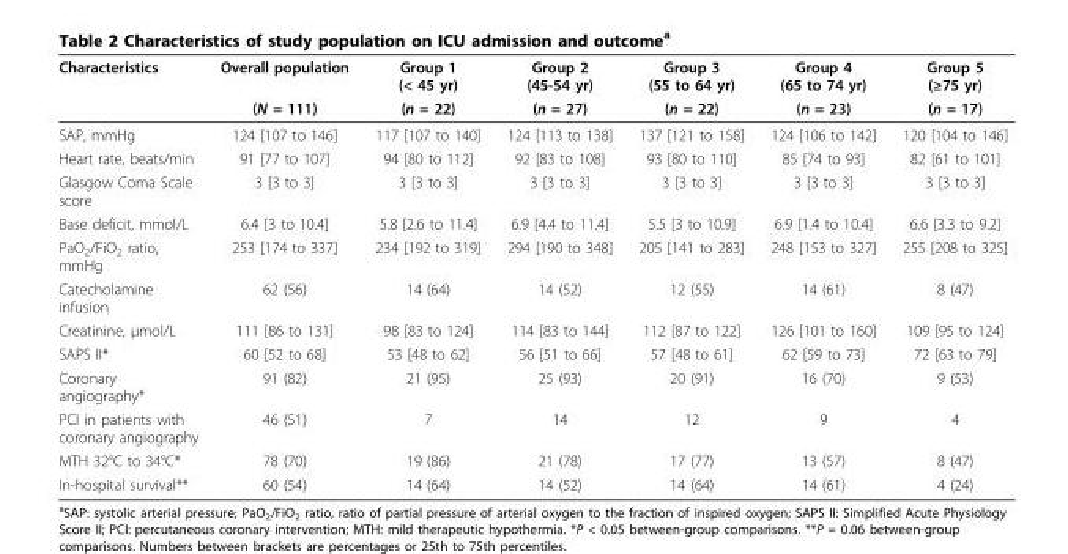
<table><thead><tr><td rowspan="2">Characteristics</td><td rowspan="2">Overall population (N = 111)</td><td rowspan="2">Group 1 (&lt; 45 yr) (n = 22)</td><td rowspan="2">Group 2 (45-54 yr) (n = 27)</td><td rowspan="2">Group 3 (55 to 64 yr) (n = 22)</td><td rowspan="2">Group 4 (65 to 74 yr) (n = 23)</td><td rowspan="2">Group 5 (≥75 yr) (n = 17)</td></tr><tr></tr></thead><tbody><tr><td>SAP, mmHg</td><td>124 [107 to 146]</td><td>117 [107 to 140]</td><td>124 [113 to 138]</td><td>137 [121 to 158]</td><td>124 [106 to 142]</td><td>120 [104 to 146]</td></tr><tr><td>Heart rate, beats/min</td><td>91 [77 to 107]</td><td>94 [80 to 112]</td><td>92 [83 to 108]</td><td>93 [80 to 110]</td><td>85 [74 to 93]</td><td>82 [61 to 101]</td></tr><tr><td>Glasgow Coma Scale score</td><td>3 [3 to 3]</td><td>3 [3 to 3]</td><td>3 [3 to 3]</td><td>3 [3 to 3]</td><td>3 [3 to 3]</td><td>3 [3 to 3]</td></tr><tr><td>Base deficit, mmol/L</td><td>6.4 [3 to 10.4]</td><td>5.8 [2.6 to 11.4]</td><td>6.9 [4.4 to 11.4]</td><td>5.5 [3 to 10.9]</td><td>6.9 [1.4 to 10.4]</td><td>6.6 [3.3 to 9.2]</td></tr><tr><td>PaO<sub>2</sub>/FiO<sub>2</sub> ratio, mmHg</td><td>253 [174 to 337]</td><td>234 [192 to 319]</td><td>294 [190 to 348]</td><td>205 [141 to 283]</td><td>248 [153 to 327]</td><td>255 [208 to 325]</td></tr><tr><td>Catecholamine infusion</td><td>62 (56)</td><td>14 (64)</td><td>14 (52)</td><td>12 (55)</td><td>14 (61)</td><td>8 (47)</td></tr><tr><td>Creatinine, μmol/L</td><td>111 [86 to 131]</td><td>98 [83 to 124]</td><td>114 [83 to 144]</td><td>112 [87 to 122]</td><td>126 [101 to 160]</td><td>109 [95 to 124]</td></tr><tr><td>SAPS II*</td><td>60 [52 to 68]</td><td>53 [48 to 62]</td><td>56 [51 to 66]</td><td>57 [48 to 61]</td><td>62 [59 to 73]</td><td>72 [63 to 79]</td></tr><tr><td>Coronary angiography*</td><td>91 (82)</td><td>21 (95)</td><td>25 (93)</td><td>20 (91)</td><td>16 (70)</td><td>9 (53)</td></tr><tr><td>PCI in patients with coronary angiography</td><td>46 (51)</td><td>7</td><td>14</td><td>12</td><td>9</td><td>4</td></tr><tr><td>MTH 32°C to 34°C*</td><td>78 (70)</td><td>19 (86)</td><td>21 (78)</td><td>17 (77)</td><td>13 (57)</td><td>8 (47)</td></tr><tr><td>In-hospital survival**</td><td>60 (54)</td><td>14 (64)</td><td>14 (52)</td><td>14 (64)</td><td>14 (61)</td><td>4 (24)</td></tr></tbody></table>